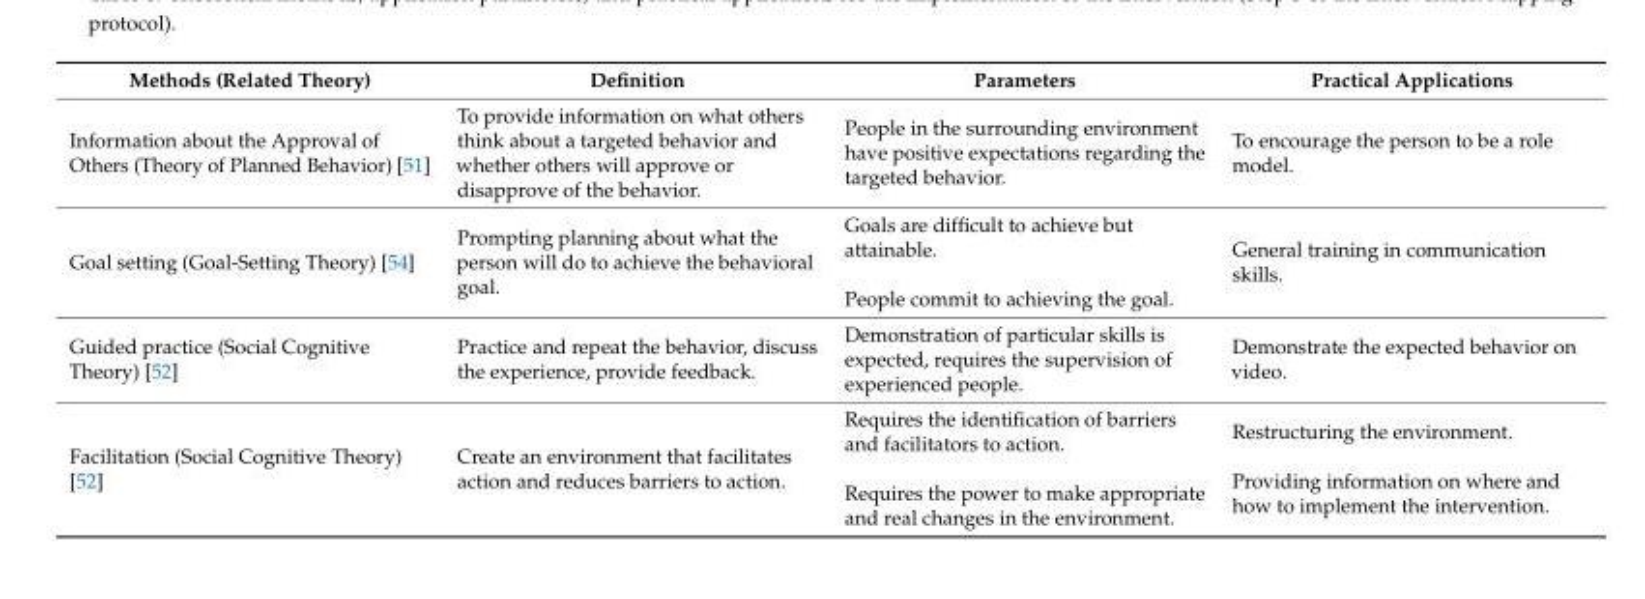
<table><thead><tr><td>Methods (Related Theory)</td><td>Definition</td><td>Parameters</td><td>Practical Applications</td></tr></thead><tbody><tr><td>Information about the Approval of Others (Theory of Planned Behavior) [51]</td><td>To provide information on what others think about a targeted behavior and whether others will approve or disapprove of the behavior.</td><td>People in the surrounding environment have positive expectations regarding the targeted behavior.</td><td>To encourage the person to be a role model.</td></tr><tr><td>Goal setting (Goal-Setting Theory) [54]</td><td>Prompting planning about what the person will do to achieve the behavioral goal.</td><td>Goals are difficult to achieve but attainable. People commit to achieving the goal.</td><td>General training in communication skills.</td></tr><tr><td>Guided practice (Social Cognitive Theory) [52]</td><td>Practice and repeat the behavior, discuss the experience, provide feedback.</td><td>Demonstration of particular skills is expected, requires the supervision of experienced people.</td><td>Demonstrate the expected behavior on video.</td></tr><tr><td>Facilitation (Social Cognitive Theory) [52]</td><td>Create an environment that facilitates action and reduces barriers to action.</td><td>Requires the identification of barriers and facilitators to action. Requires the power to make appropriate and real changes in the environment.</td><td>Restructuring the environment. Providing information on where and how to implement the intervention.</td></tr></tbody></table>